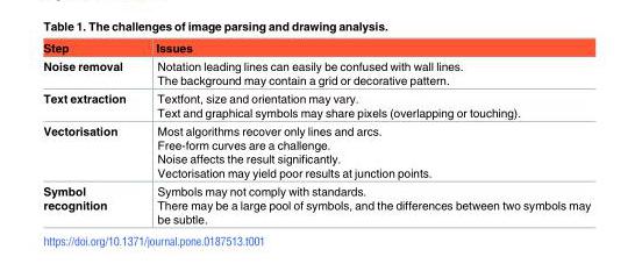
<table><thead><tr><td>Step</td><td>Issues</td></tr></thead><tbody><tr><td>Noise removal</td><td>Notation leading lines can easily be confused with wall lines. The background may contain a grid or decorative pattern.</td></tr><tr><td>Text extraction</td><td>Textfont, size and orientation may vary. Text and graphical symbols may share pixels (overlapping or touching).</td></tr><tr><td>Vectorisation</td><td>Most algorithms recover only lines and arcs. Free-form curves are a challenge. Noise affects the result significantly. Vectorisation may yield poor results at junction points.</td></tr><tr><td>Symbol recognition</td><td>Symbols may not comply with standards. There may be a large pool of symbols, and the differences between two symbols may be subtle.</td></tr></tbody></table>